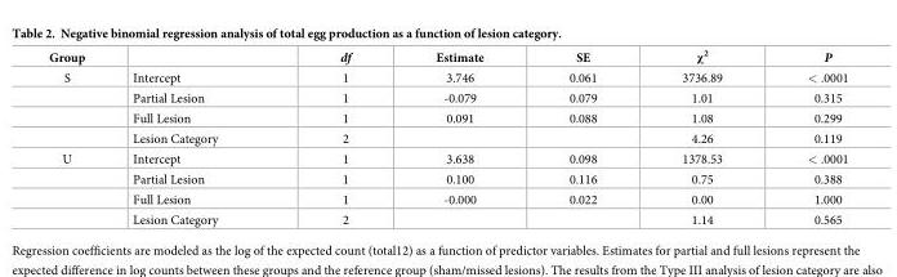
<table><thead><tr><td>Group</td><td></td><td>df</td><td>Estimate</td><td>SE</td><td>χ<sup>2</sup></td><td>P</td></tr></thead><tbody><tr><td rowspan="4">S</td><td>Intercept</td><td>1</td><td>3.746</td><td>0.061</td><td>3736.89</td><td>&lt; .0001</td></tr><tr><td>Partial Lesion</td><td>1</td><td>-0.079</td><td>0.079</td><td>1.01</td><td>0.315</td></tr><tr><td>Full Lesion</td><td>1</td><td>0.091</td><td>0.088</td><td>1.08</td><td>0.299</td></tr><tr><td>Lesion Category</td><td>2</td><td></td><td></td><td>4.26</td><td>0.119</td></tr><tr><td rowspan="4">U</td><td>Intercept</td><td>1</td><td>3.638</td><td>0.098</td><td>1378.53</td><td>&lt; .0001</td></tr><tr><td>Partial Lesion</td><td>1</td><td>0.100</td><td>0.116</td><td>0.75</td><td>0.388</td></tr><tr><td>Full Lesion</td><td>1</td><td>-0.000</td><td>0.022</td><td>0.00</td><td>1.000</td></tr><tr><td>Lesion Category</td><td>2</td><td></td><td></td><td>1.14</td><td>0.565</td></tr></tbody></table>